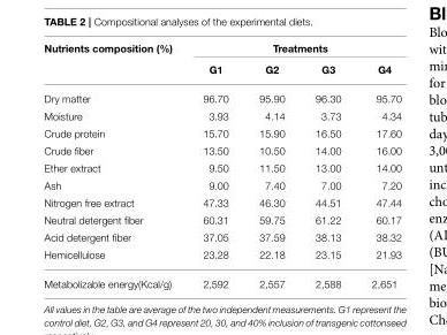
<table><thead><tr><td rowspan="2">Nutrients composition (%)</td><td colspan="4">Treatments</td></tr><tr><td>G1</td><td>G2</td><td>G3</td><td>G4</td></tr></thead><tbody><tr><td>Dry matter</td><td>96.70</td><td>95.90</td><td>96.30</td><td>95.70</td></tr><tr><td>Moisture</td><td>3.93</td><td>4.14</td><td>3.73</td><td>4.34</td></tr><tr><td>Crude protein</td><td>15.70</td><td>15.90</td><td>16.50</td><td>17.60</td></tr><tr><td>Crude fiber</td><td>13.50</td><td>10.50</td><td>14.00</td><td>16.00</td></tr><tr><td>Ether extract</td><td>9.50</td><td>11.50</td><td>13.00</td><td>14.00</td></tr><tr><td>Ash</td><td>9.00</td><td>7.40</td><td>7.00</td><td>7.20</td></tr><tr><td>Nitrogen free extract</td><td>47.33</td><td>46.30</td><td>44.51</td><td>47.44</td></tr><tr><td>Neutral detergent fiber</td><td>60.31</td><td>59.75</td><td>61.22</td><td>60.17</td></tr><tr><td>Acid detergent fiber</td><td>37.05</td><td>37.59</td><td>38.13</td><td>38.32</td></tr><tr><td>Hemicellulose</td><td>23.28</td><td>22.18</td><td>23.15</td><td>21.93</td></tr><tr><td>Metabolizable energy(Kcal/g)</td><td>2,592</td><td>2,557</td><td>2,588</td><td>2,651</td></tr></tbody></table>